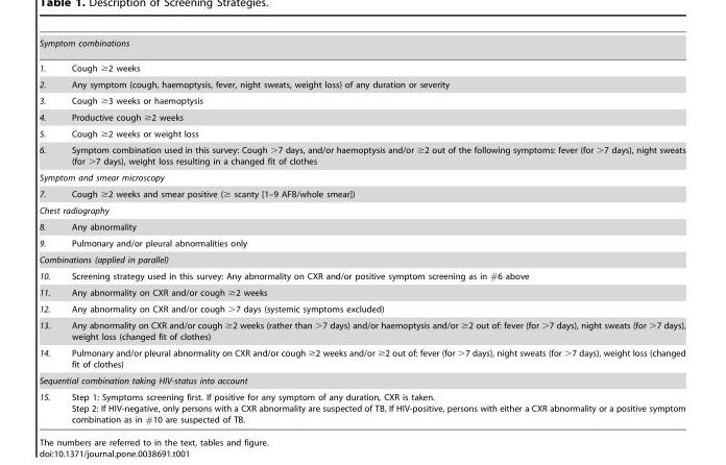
<table><tbody><tr><td colspan="2">Symptom combinations</td></tr><tr><td>1.</td><td>Cough ≥2 weeks</td></tr><tr><td>2.</td><td>Any symptom (cough, haemoptysis, fever, night sweats, weight loss) of any duration or severity</td></tr><tr><td>3.</td><td>Cough ≥3 weeks or haemoptysis</td></tr><tr><td>4.</td><td>Productive cough ≥2 weeks</td></tr><tr><td>5.</td><td>Cough ≥2 weeks or weight loss</td></tr><tr><td>6.</td><td>Symptom combination used in this survey: Cough &gt;7 days, and/or haemoptysis and/or ≥2 out of the following symptoms: fever (for &gt;7 days), night sweats (for &gt;7 days), weight loss resulting in a changed fit of clothes</td></tr><tr><td colspan="2">Symptom and smear microscopy</td></tr><tr><td>7.</td><td>Cough ≥2 weeks and smear positive (≥ scanty [1–9 AFB/whole smear])</td></tr><tr><td colspan="2">Chest radiography</td></tr><tr><td>8.</td><td>Any abnormality</td></tr><tr><td>9.</td><td>Pulmonary and/or pleural abnormalities only</td></tr><tr><td colspan="2">Combinations (applied in parallel)</td></tr><tr><td>10.</td><td>Screening strategy used in this survey: Any abnormality on CXR and/or positive symptom screening as in #6 above</td></tr><tr><td>11.</td><td>Any abnormality on CXR and/or cough ≥2 weeks</td></tr><tr><td>12.</td><td>Any abnormality on CXR and/or cough &gt;7 days (systemic symptoms excluded)</td></tr><tr><td>13.</td><td>Any abnormality on CXR and/or cough ≥2 weeks (rather than &gt;7 days) and/or haemoptysis and/or ≥2 out of: fever (for &gt;7 days), night sweats (for &gt;7 days), weight loss (changed fit of clothes)</td></tr><tr><td>14.</td><td>Pulmonary and/or pleural abnormality on CXR and/or cough ≥2 weeks and/or ≥2 out of: fever (for &gt;7 days), night sweats (for &gt;7 days), weight loss (changed fit of clothes)</td></tr><tr><td colspan="2">Sequential combination taking HIV-status into account</td></tr><tr><td>15.</td><td>Step 1: Symptoms screening first. If positive for any symptom of any duration, CXR is taken. Step 2: If HIV-negative, only persons with a CXR abnormality are suspected of TB. If HIV-positive, persons with either a CXR abnormality or a positive symptom combination as in #10 are suspected of TB.</td></tr></tbody></table>